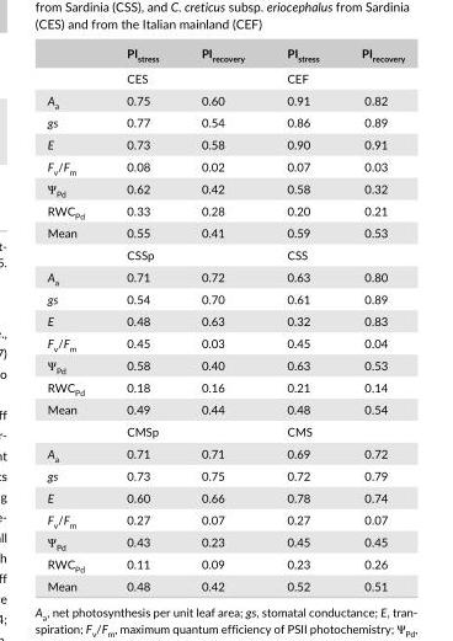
<table><thead><tr><td></td><td>PI<sub>stress</sub></td><td>PI<sub>recovery</sub></td><td>PI<sub>stress</sub></td><td>PI<sub>recovery</sub></td></tr></thead><tbody><tr><td></td><td colspan="2">CES</td><td colspan="2">CEF</td></tr><tr><td>A<sub>a</sub></td><td>0.75</td><td>0.60</td><td>0.91</td><td>0.82</td></tr><tr><td>gs</td><td>0.77</td><td>0.54</td><td>0.86</td><td>0.89</td></tr><tr><td>E</td><td>0.73</td><td>0.58</td><td>0.90</td><td>0.91</td></tr><tr><td>F<sub>v</sub>/F<sub>m</sub></td><td>0.08</td><td>0.02</td><td>0.07</td><td>0.03</td></tr><tr><td>Ψ<sub>Pd</sub></td><td>0.62</td><td>0.42</td><td>0.58</td><td>0.32</td></tr><tr><td>RWC<sub>Pd</sub></td><td>0.33</td><td>0.28</td><td>0.20</td><td>0.21</td></tr><tr><td rowspan="2">Mean</td><td>0.55</td><td>0.41</td><td>0.59</td><td>0.53</td></tr><tr><td colspan="2">CSSp</td><td colspan="2">CSS</td></tr><tr><td>A<sub>a</sub></td><td>0.71</td><td>0.72</td><td>0.63</td><td>0.80</td></tr><tr><td>gs</td><td>0.54</td><td>0.70</td><td>0.61</td><td>0.89</td></tr><tr><td>E</td><td>0.48</td><td>0.63</td><td>0.32</td><td>0.83</td></tr><tr><td>F<sub>v</sub>/F<sub>m</sub></td><td>0.45</td><td>0.03</td><td>0.45</td><td>0.04</td></tr><tr><td>Ψ<sub>Pd</sub></td><td>0.58</td><td>0.40</td><td>0.63</td><td>0.53</td></tr><tr><td>RWC<sub>Pd</sub></td><td>0.18</td><td>0.16</td><td>0.21</td><td>0.14</td></tr><tr><td rowspan="2">Mean</td><td>0.49</td><td>0.44</td><td>0.48</td><td>0.54</td></tr><tr><td colspan="2">CMSp</td><td colspan="2">CMS</td></tr><tr><td>A<sub>a</sub></td><td>0.71</td><td>0.71</td><td>0.69</td><td>0.72</td></tr><tr><td>gs</td><td>0.73</td><td>0.75</td><td>0.72</td><td>0.79</td></tr><tr><td>E</td><td>0.60</td><td>0.66</td><td>0.78</td><td>0.74</td></tr><tr><td>F<sub>v</sub>/F<sub>m</sub></td><td>0.27</td><td>0.07</td><td>0.27</td><td>0.07</td></tr><tr><td>Ψ<sub>Pd</sub></td><td>0.43</td><td>0.23</td><td>0.45</td><td>0.45</td></tr><tr><td>RWC<sub>Pd</sub></td><td>0.11</td><td>0.09</td><td>0.23</td><td>0.26</td></tr><tr><td>Mean</td><td>0.48</td><td>0.42</td><td>0.52</td><td>0.51</td></tr></tbody></table>